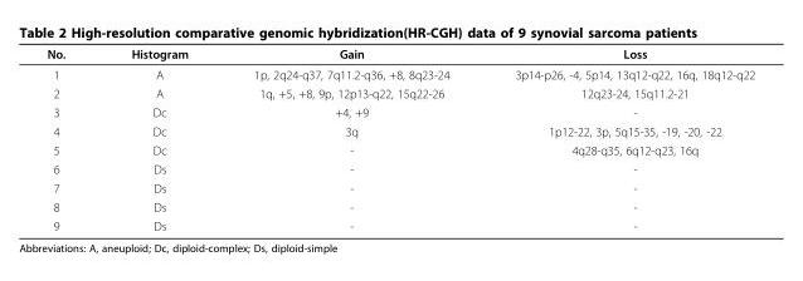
<table><thead><tr><td>No.</td><td>Histogram</td><td>Gain</td><td>Loss</td></tr></thead><tbody><tr><td>1</td><td>A</td><td>1p, 2q24-q37, 7q11.2-q36, +8, 8q23-24</td><td>3p14-p26, -4, 5p14, 13q12-q22, 16q, 18q12-q22</td></tr><tr><td>2</td><td>A</td><td>1q, +5, +8, 9p, 12p13-q22, 15q22-26</td><td>12q23-24, 15q11.2-21</td></tr><tr><td>3</td><td>Dc</td><td>+4, +9</td><td>-</td></tr><tr><td>4</td><td>Dc</td><td>3q</td><td>1p12-22, 3p, 5q15-35, -19, -20, -22</td></tr><tr><td>5</td><td>Dc</td><td>-</td><td>4q28-q35, 6q12-q23, 16q</td></tr><tr><td>6</td><td>Ds</td><td>-</td><td>-</td></tr><tr><td>7</td><td>Ds</td><td>-</td><td>-</td></tr><tr><td>8</td><td>Ds</td><td>-</td><td>-</td></tr><tr><td>9</td><td>Ds</td><td>-</td><td>-</td></tr></tbody></table>